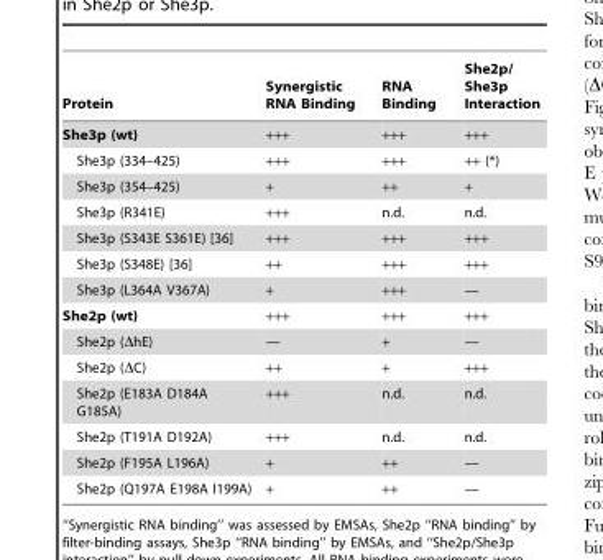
<table><thead><tr><td>Protein</td><td>Synergistic RNA Binding</td><td>RNA Binding</td><td>She2p/ She3p Interaction</td></tr></thead><tbody><tr><td>She3p (wt)</td><td>+++</td><td>+++</td><td>+++</td></tr><tr><td>She3p (334–425)</td><td>+++</td><td>+++</td><td>++ (*)</td></tr><tr><td>She3p (354–425)</td><td>+</td><td>++</td><td>+</td></tr><tr><td>She3p (R341E)</td><td>+++</td><td>n.d.</td><td>n.d.</td></tr><tr><td>She3p (S343E S361E) [36]</td><td>+++</td><td>+++</td><td>+++</td></tr><tr><td>She3p (S348E) [36]</td><td>++</td><td>+++</td><td>+++</td></tr><tr><td>She3p (L364A V367A)</td><td>+</td><td>+++</td><td>—</td></tr><tr><td>She2p (wt)</td><td>+++</td><td>+++</td><td>+++</td></tr><tr><td>She2p (ΔhE)</td><td>—</td><td>+</td><td>—</td></tr><tr><td>She2p (ΔC)</td><td>++</td><td>+</td><td>+++</td></tr><tr><td>She2p (E183A D184A G185A)</td><td>+++</td><td>n.d.</td><td>n.d.</td></tr><tr><td>She2p (T191A D192A)</td><td>+++</td><td>n.d.</td><td>n.d.</td></tr><tr><td>She2p (F195A L196A)</td><td>+</td><td>++</td><td>—</td></tr><tr><td>She2p (Q197A E198A I199A)</td><td>+</td><td>++</td><td>—</td></tr></tbody></table>